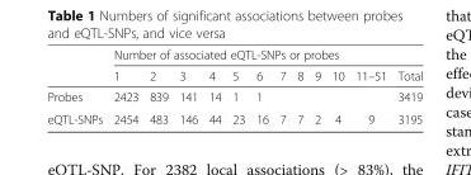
<table><thead><tr><td rowspan="2"></td><td colspan="12">Number of associated eQTL-SNPs or probes</td></tr><tr><td>1</td><td>2</td><td>3</td><td>4</td><td>5</td><td>6</td><td>7</td><td>8</td><td>9</td><td>10</td><td>11–51</td><td>Total</td></tr></thead><tbody><tr><td>Probes</td><td>2423</td><td>839</td><td>141</td><td>14</td><td>1</td><td>1</td><td></td><td></td><td></td><td></td><td></td><td>3419</td></tr><tr><td>eQTL-SNPs</td><td>2454</td><td>483</td><td>146</td><td>44</td><td>23</td><td>16</td><td>7</td><td>7</td><td>2</td><td>4</td><td>9</td><td>3195</td></tr></tbody></table>